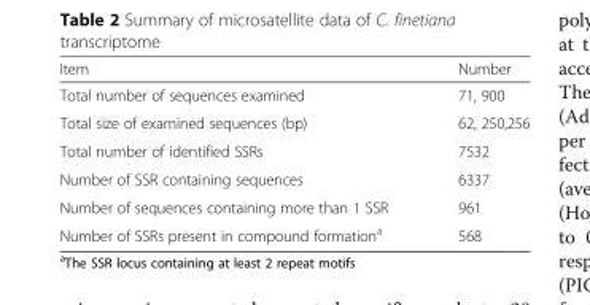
<table><thead><tr><td>Item</td><td>Number</td></tr></thead><tbody><tr><td>Total number of sequences examined</td><td>71, 900</td></tr><tr><td>Total size of examined sequences (bp)</td><td>62, 250,256</td></tr><tr><td>Total number of identified SSRs</td><td>7532</td></tr><tr><td>Number of SSR containing sequences</td><td>6337</td></tr><tr><td>Number of sequences containing more than 1 SSR</td><td>961</td></tr><tr><td>Number of SSRs present in compound formation<sup>a</sup></td><td>568</td></tr></tbody></table>